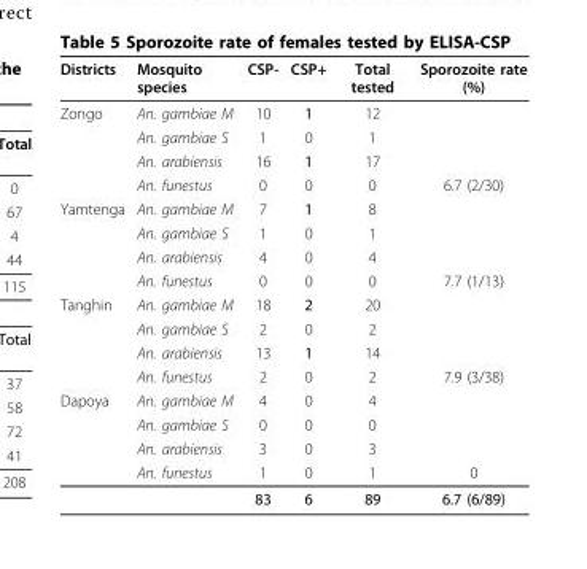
<table><thead><tr><td>Districts</td><td>Mosquito species</td><td>CSP-</td><td>CSP+</td><td>Total tested</td><td>Sporozoite rate (%)</td></tr></thead><tbody><tr><td rowspan="4">Zongo</td><td>An. gambiae M</td><td>10</td><td>1</td><td>12</td><td></td></tr><tr><td>An. gambiae S</td><td>1</td><td>0</td><td>1</td><td></td></tr><tr><td>An. arabiensis</td><td>16</td><td>1</td><td>17</td><td></td></tr><tr><td>An. funestus</td><td>0</td><td>0</td><td>0</td><td>6.7 (2/30)</td></tr><tr><td rowspan="4">Yamtenga</td><td>An. gambiae M</td><td>7</td><td>1</td><td>8</td><td></td></tr><tr><td>An. gambiae S</td><td>1</td><td>0</td><td>1</td><td></td></tr><tr><td>An. arabiensis</td><td>4</td><td>0</td><td>4</td><td></td></tr><tr><td>An. funestus</td><td>0</td><td>0</td><td>0</td><td>7.7 (1/13)</td></tr><tr><td rowspan="4">Tanghin</td><td>An. gambiae M</td><td>18</td><td>2</td><td>20</td><td></td></tr><tr><td>An. gambiae S</td><td>2</td><td>0</td><td>2</td><td></td></tr><tr><td>An. arabiensis</td><td>13</td><td>1</td><td>14</td><td></td></tr><tr><td>An. funestus</td><td>2</td><td>0</td><td>2</td><td>7.9 (3/38)</td></tr><tr><td rowspan="5">Dapoya</td><td>An. gambiae M</td><td>4</td><td>0</td><td>4</td><td></td></tr><tr><td>An. gambiae S</td><td>0</td><td>0</td><td>0</td><td></td></tr><tr><td>An. arabiensis</td><td>3</td><td>0</td><td>3</td><td></td></tr><tr><td>An. funestus</td><td>1</td><td>0</td><td>1</td><td>0</td></tr><tr><td></td><td>83</td><td>6</td><td>89</td><td>6.7 (6/89)</td></tr></tbody></table>